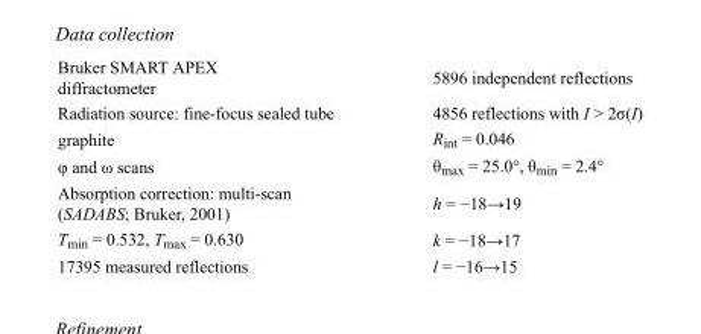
<table><tbody><tr><td>Bruker SMART APEX diffractometer</td><td>5896 independent reflections</td></tr><tr><td>Radiation source: fine-focus sealed tube</td><td>4856 reflections with I &gt; 2σ(I)</td></tr><tr><td>graphite</td><td>R<sub>int</sub> = 0.046</td></tr><tr><td>φ and ω scans</td><td>θ<sub>max</sub> = 25.0°, θ<sub>min</sub> = 2.4°</td></tr><tr><td>Absorption correction: multi-scan (SADABS; Bruker, 2001)</td><td>h = −18→19</td></tr><tr><td>T<sub>min</sub> = 0.532, T<sub>max</sub> = 0.630</td><td>k = −18→17</td></tr><tr><td>17395 measured reflections</td><td>l = −16→15</td></tr></tbody></table>